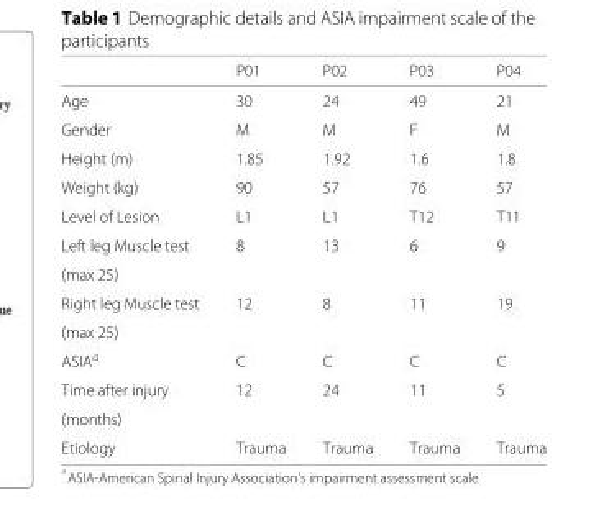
<table><thead><tr><td></td><td>P01</td><td>P02</td><td>P03</td><td>P04</td></tr></thead><tbody><tr><td>Age</td><td>30</td><td>24</td><td>49</td><td>21</td></tr><tr><td>Gender</td><td>M</td><td>M</td><td>F</td><td>M</td></tr><tr><td>Height (m)</td><td>1.85</td><td>1.92</td><td>1.6</td><td>1.8</td></tr><tr><td>Weight (kg)</td><td>90</td><td>57</td><td>76</td><td>57</td></tr><tr><td>Level of Lesion</td><td>L1</td><td>L1</td><td>T12</td><td>T11</td></tr><tr><td>Left leg Muscle test</td><td>8</td><td>13</td><td>6</td><td>9</td></tr><tr><td colspan="5">(max 25)</td></tr><tr><td>Right leg Muscle test</td><td>12</td><td>8</td><td>11</td><td>19</td></tr><tr><td colspan="5">(max 25)</td></tr><tr><td>ASIA<sup>a</sup></td><td>C</td><td>C</td><td>C</td><td>C</td></tr><tr><td>Time after injury</td><td>12</td><td>24</td><td>11</td><td>5</td></tr><tr><td colspan="5">(months)</td></tr><tr><td>Etiology</td><td>Trauma</td><td>Trauma</td><td>Trauma</td><td>Trauma</td></tr></tbody></table>